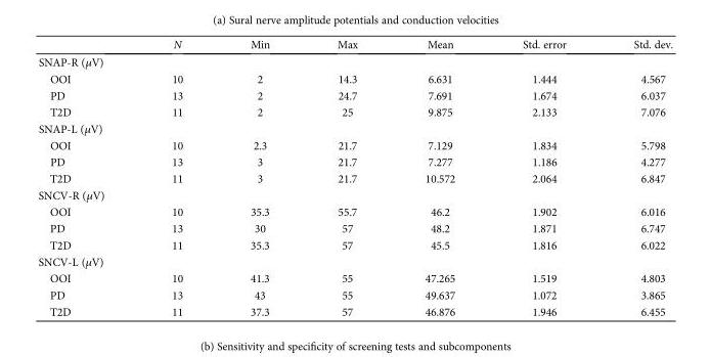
<table><thead><tr><td></td><td>N</td><td>Min</td><td>Max</td><td>Mean</td><td>Std. error</td><td>Std. dev.</td></tr></thead><tbody><tr><td colspan="7">SNAP-R (μV)</td></tr><tr><td>OOI</td><td>10</td><td>2</td><td>14.3</td><td>6.631</td><td>1.444</td><td>4.567</td></tr><tr><td>PD</td><td>13</td><td>2</td><td>24.7</td><td>7.691</td><td>1.674</td><td>6.037</td></tr><tr><td>T2D</td><td>11</td><td>2</td><td>25</td><td>9.875</td><td>2.133</td><td>7.076</td></tr><tr><td colspan="7">SNAP-L (μV)</td></tr><tr><td>OOI</td><td>10</td><td>2.3</td><td>21.7</td><td>7.129</td><td>1.834</td><td>5.798</td></tr><tr><td>PD</td><td>13</td><td>3</td><td>21.7</td><td>7.277</td><td>1.186</td><td>4.277</td></tr><tr><td>T2D</td><td>11</td><td>3</td><td>21.7</td><td>10.572</td><td>2.064</td><td>6.847</td></tr><tr><td colspan="7">SNCV-R (μV)</td></tr><tr><td>OOI</td><td>10</td><td>35.3</td><td>55.7</td><td>46.2</td><td>1.902</td><td>6.016</td></tr><tr><td>PD</td><td>13</td><td>30</td><td>57</td><td>48.2</td><td>1.871</td><td>6.747</td></tr><tr><td>T2D</td><td>11</td><td>35.3</td><td>57</td><td>45.5</td><td>1.816</td><td>6.022</td></tr><tr><td colspan="7">SNCV-L (μV)</td></tr><tr><td>OOI</td><td>10</td><td>41.3</td><td>55</td><td>47.265</td><td>1.519</td><td>4.803</td></tr><tr><td>PD</td><td>13</td><td>43</td><td>55</td><td>49.637</td><td>1.072</td><td>3.865</td></tr><tr><td>T2D</td><td>11</td><td>37.3</td><td>57</td><td>46.876</td><td>1.946</td><td>6.455</td></tr></tbody></table>